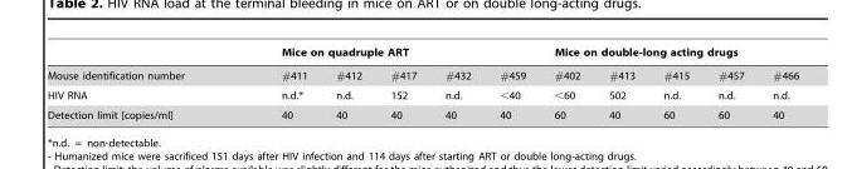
<table><thead><tr><td rowspan="2">Mouse identification number</td><td colspan="5">Mice on quadruple ART</td><td colspan="5">Mice on double-long acting drugs</td></tr><tr><td>#411</td><td>#412</td><td>#417</td><td>#432</td><td>#459</td><td>#402</td><td>#413</td><td>#415</td><td>#457</td><td>#466</td></tr></thead><tbody><tr><td>HIV RNA</td><td>n.d.*</td><td>n.d.</td><td>152</td><td>n.d.</td><td>&lt;40</td><td>&lt;60</td><td>502</td><td>n.d.</td><td>n.d.</td><td>n.d.</td></tr><tr><td>Detection limit [copies/ml]</td><td>40</td><td>40</td><td>40</td><td>40</td><td>40</td><td>60</td><td>40</td><td>60</td><td>60</td><td>40</td></tr></tbody></table>